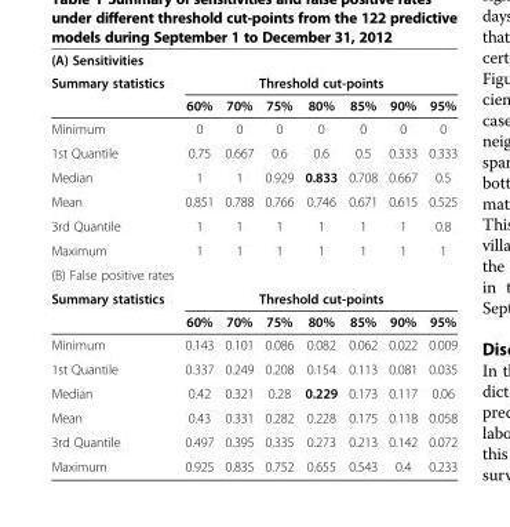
<table><thead><tr><td rowspan="3">(A) Sensitivities Summary statistics</td><td></td><td></td><td></td><td></td><td></td><td></td><td></td></tr><tr><td colspan="7">Threshold cut-points</td></tr><tr><td>60%</td><td>70%</td><td>75%</td><td>80%</td><td>85%</td><td>90%</td><td>95%</td></tr></thead><tbody><tr><td>Minimum</td><td>0</td><td>0</td><td>0</td><td>0</td><td>0</td><td>0</td><td>0</td></tr><tr><td>1st Quantile</td><td>0.75</td><td>0.667</td><td>0.6</td><td>0.6</td><td>0.5</td><td>0.333</td><td>0.333</td></tr><tr><td>Median</td><td>1</td><td>1</td><td>0.929</td><td>0.833</td><td>0.708</td><td>0.667</td><td>0.5</td></tr><tr><td>Mean</td><td>0.851</td><td>0.788</td><td>0.766</td><td>0.746</td><td>0.671</td><td>0.615</td><td>0.525</td></tr><tr><td>3rd Quantile</td><td>1</td><td>1</td><td>1</td><td>1</td><td>1</td><td>1</td><td>0.8</td></tr><tr><td>Maximum</td><td>1</td><td>1</td><td>1</td><td>1</td><td>1</td><td>1</td><td>1</td></tr><tr><td colspan="8">(B) False positive rates</td></tr><tr><td rowspan="2">Summary statistics</td><td colspan="7">Threshold cut-points</td></tr><tr><td>60%</td><td>70%</td><td>75%</td><td>80%</td><td>85%</td><td>90%</td><td>95%</td></tr><tr><td>Minimum</td><td>0.143</td><td>0.101</td><td>0.086</td><td>0.082</td><td>0.062</td><td>0.022</td><td>0.009</td></tr><tr><td>1st Quantile</td><td>0.337</td><td>0.249</td><td>0.208</td><td>0.154</td><td>0.113</td><td>0.081</td><td>0.035</td></tr><tr><td>Median</td><td>0.42</td><td>0.321</td><td>0.28</td><td>0.229</td><td>0.173</td><td>0.117</td><td>0.06</td></tr><tr><td>Mean</td><td>0.43</td><td>0.331</td><td>0.282</td><td>0.228</td><td>0.175</td><td>0.118</td><td>0.058</td></tr><tr><td>3rd Quantile</td><td>0.497</td><td>0.395</td><td>0.335</td><td>0.273</td><td>0.213</td><td>0.142</td><td>0.072</td></tr><tr><td>Maximum</td><td>0.925</td><td>0.835</td><td>0.752</td><td>0.655</td><td>0.543</td><td>0.4</td><td>0.233</td></tr></tbody></table>